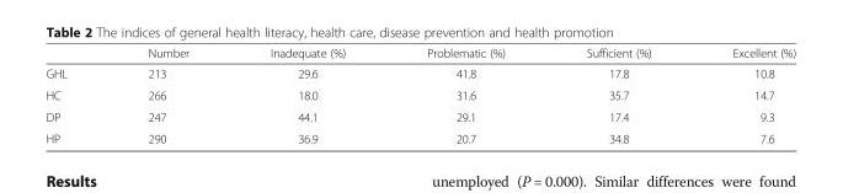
<table><thead><tr><td></td><td>Number</td><td>Inadequate (%)</td><td>Problematic (%)</td><td>Sufficient (%)</td><td>Excellent (%)</td></tr></thead><tbody><tr><td>GHL</td><td>213</td><td>29.6</td><td>41.8</td><td>17.8</td><td>10.8</td></tr><tr><td>HC</td><td>266</td><td>18.0</td><td>31.6</td><td>35.7</td><td>14.7</td></tr><tr><td>DP</td><td>247</td><td>44.1</td><td>29.1</td><td>17.4</td><td>9.3</td></tr><tr><td>HP</td><td>290</td><td>36.9</td><td>20.7</td><td>34.8</td><td>7.6</td></tr></tbody></table>